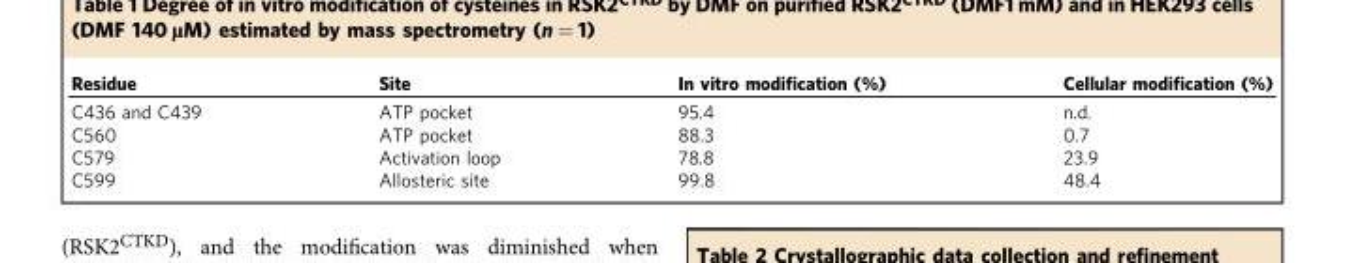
<table><thead><tr><td>Residue</td><td>Site</td><td>In vitro modification (%)</td><td>Cellular modification (%)</td></tr></thead><tbody><tr><td>C436 and C439</td><td>ATP pocket</td><td>95.4</td><td>n.d.</td></tr><tr><td>C560</td><td>ATP pocket</td><td>88.3</td><td>0.7</td></tr><tr><td>C579</td><td>Activation loop</td><td>78.8</td><td>23.9</td></tr><tr><td>C599</td><td>Allosteric site</td><td>99.8</td><td>48.4</td></tr></tbody></table>